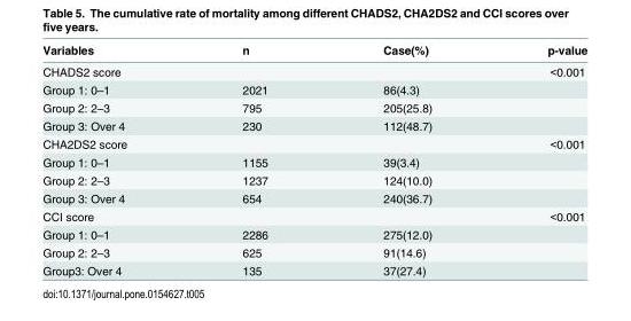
<table><thead><tr><td>Variables</td><td>n</td><td>Case(%)</td><td>p-value</td></tr></thead><tbody><tr><td>CHADS2 score</td><td></td><td></td><td>&lt;0.001</td></tr><tr><td>Group 1: 0–1</td><td>2021</td><td>86(4.3)</td><td></td></tr><tr><td>Group 2: 2–3</td><td>795</td><td>205(25.8)</td><td></td></tr><tr><td>Group 3: Over 4</td><td>230</td><td>112(48.7)</td><td></td></tr><tr><td>CHA2DS2 score</td><td></td><td></td><td>&lt;0.001</td></tr><tr><td>Group 1: 0–1</td><td>1155</td><td>39(3.4)</td><td></td></tr><tr><td>Group 2: 2–3</td><td>1237</td><td>124(10.0)</td><td></td></tr><tr><td>Group 3: Over 4</td><td>654</td><td>240(36.7)</td><td></td></tr><tr><td>CCI score</td><td></td><td></td><td>&lt;0.001</td></tr><tr><td>Group 1: 0–1</td><td>2286</td><td>275(12.0)</td><td></td></tr><tr><td>Group 2: 2–3</td><td>625</td><td>91(14.6)</td><td></td></tr><tr><td>Group3: Over 4</td><td>135</td><td>37(27.4)</td><td></td></tr></tbody></table>